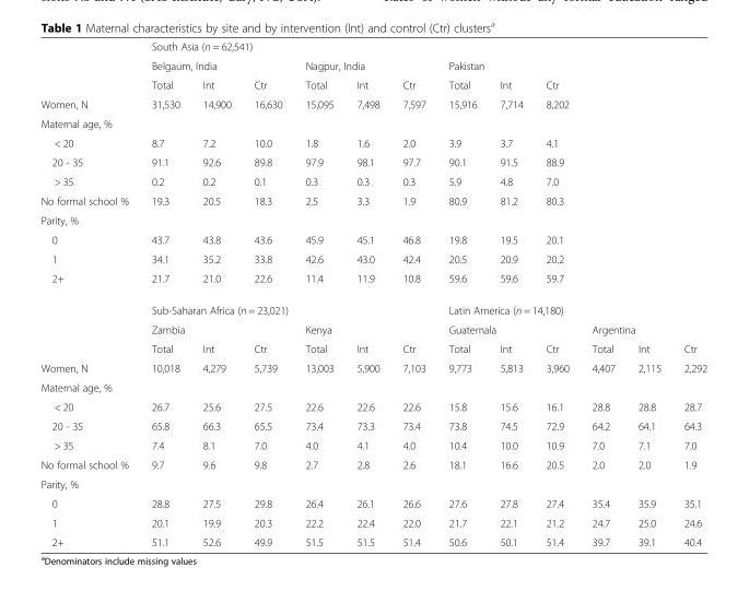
<table><thead><tr><td rowspan="3"></td><td colspan="12">South Asia (n = 62,541)</td></tr><tr><td colspan="3">Belgaum, India</td><td colspan="3">Nagpur, India</td><td colspan="3">Pakistan</td><td rowspan="2"></td><td rowspan="2"></td><td rowspan="2"></td></tr><tr><td>Total</td><td>Int</td><td>Ctr</td><td>Total</td><td>Int</td><td>Ctr</td><td>Total</td><td>Int</td><td>Ctr</td></tr></thead><tbody><tr><td>Women, N</td><td>31,530</td><td>14,900</td><td>16,630</td><td>15,095</td><td>7,498</td><td>7,597</td><td>15,916</td><td>7,714</td><td>8,202</td><td></td><td></td><td></td></tr><tr><td colspan="13">Maternal age, %</td></tr><tr><td>&lt; 20</td><td>8.7</td><td>7.2</td><td>10.0</td><td>1.8</td><td>1.6</td><td>2.0</td><td>3.9</td><td>3.7</td><td>4.1</td><td></td><td></td><td></td></tr><tr><td>20 - 35</td><td>91.1</td><td>92.6</td><td>89.8</td><td>97.9</td><td>98.1</td><td>97.7</td><td>90.1</td><td>91.5</td><td>88.9</td><td></td><td></td><td></td></tr><tr><td>&gt; 35</td><td>0.2</td><td>0.2</td><td>0.1</td><td>0.3</td><td>0.3</td><td>0.3</td><td>5.9</td><td>4.8</td><td>7.0</td><td></td><td></td><td></td></tr><tr><td>No formal school %</td><td>19.3</td><td>20.5</td><td>18.3</td><td>2.5</td><td>3.3</td><td>1.9</td><td>80.9</td><td>81.2</td><td>80.3</td><td></td><td></td><td></td></tr><tr><td colspan="13">Parity, %</td></tr><tr><td>0</td><td>43.7</td><td>43.8</td><td>43.6</td><td>45.9</td><td>45.1</td><td>46.8</td><td>19.8</td><td>19.5</td><td>20.1</td><td></td><td></td><td></td></tr><tr><td>1</td><td>34.1</td><td>35.2</td><td>33.8</td><td>42.6</td><td>43.0</td><td>42.4</td><td>20.5</td><td>20.9</td><td>20.2</td><td></td><td></td><td></td></tr><tr><td rowspan="4">2+</td><td>21.7</td><td>21.0</td><td>22.6</td><td>11.4</td><td>11.9</td><td>10.8</td><td>59.6</td><td>59.6</td><td>59.7</td><td></td><td></td><td></td></tr><tr><td colspan="6">Sub-Saharan Africa (n = 23,021)</td><td colspan="6">Latin America (n = 14,180)</td></tr><tr><td colspan="3">Zambia</td><td colspan="3">Kenya</td><td colspan="3">Guatemala</td><td colspan="3">Argentina</td></tr><tr><td>Total</td><td>Int</td><td>Ctr</td><td>Total</td><td>Int</td><td>Ctr</td><td>Total</td><td>Int</td><td>Ctr</td><td>Total</td><td>Int</td><td>Ctr</td></tr><tr><td>Women, N</td><td>10,018</td><td>4,279</td><td>5,739</td><td>13,003</td><td>5,900</td><td>7,103</td><td>9,773</td><td>5,813</td><td>3,960</td><td>4,407</td><td>2,115</td><td>2,292</td></tr><tr><td colspan="13">Maternal age, %</td></tr><tr><td>&lt; 20</td><td>26.7</td><td>25.6</td><td>27.5</td><td>22.6</td><td>22.6</td><td>22.6</td><td>15.8</td><td>15.6</td><td>16.1</td><td>28.8</td><td>28.8</td><td>28.7</td></tr><tr><td>20 - 35</td><td>65.8</td><td>66.3</td><td>65.5</td><td>73.4</td><td>73.3</td><td>73.4</td><td>73.8</td><td>74.5</td><td>72.9</td><td>64.2</td><td>64.1</td><td>64.3</td></tr><tr><td>&gt; 35</td><td>7.4</td><td>8.1</td><td>7.0</td><td>4.0</td><td>4.1</td><td>4.0</td><td>10.4</td><td>10.0</td><td>10.9</td><td>7.0</td><td>7.1</td><td>7.0</td></tr><tr><td>No formal school %</td><td>9.7</td><td>9.6</td><td>9.8</td><td>2.7</td><td>2.8</td><td>2.6</td><td>18.1</td><td>16.6</td><td>20.5</td><td>2.0</td><td>2.0</td><td>1.9</td></tr><tr><td colspan="13">Parity, %</td></tr><tr><td>0</td><td>28.8</td><td>27.5</td><td>29.8</td><td>26.4</td><td>26.1</td><td>26.6</td><td>27.6</td><td>27.8</td><td>27.4</td><td>35.4</td><td>35.9</td><td>35.1</td></tr><tr><td>1</td><td>20.1</td><td>19.9</td><td>20.3</td><td>22.2</td><td>22.4</td><td>22.0</td><td>21.7</td><td>22.1</td><td>21.2</td><td>24.7</td><td>25.0</td><td>24.6</td></tr><tr><td>2+</td><td>51.1</td><td>52.6</td><td>49.9</td><td>51.5</td><td>51.5</td><td>51.4</td><td>50.6</td><td>50.1</td><td>51.4</td><td>39.7</td><td>39.1</td><td>40.4</td></tr></tbody></table>